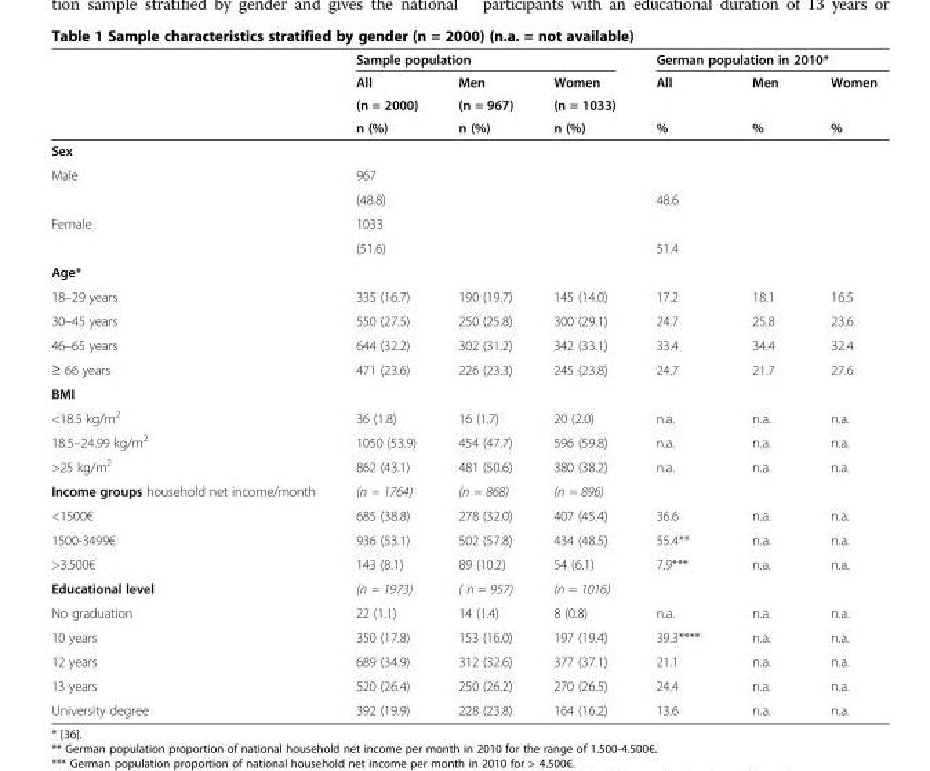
<table><thead><tr><td rowspan="4"></td><td colspan="3">Sample population</td><td colspan="3">German population in 2010*</td></tr><tr><td rowspan="3">All (n = 2000) n (%)</td><td rowspan="3">Men (n = 967) n (%)</td><td rowspan="3">Women (n = 1033) n (%)</td><td rowspan="3">All %</td><td rowspan="3">Men %</td><td rowspan="3">Women %</td></tr><tr></tr><tr></tr></thead><tbody><tr><td colspan="7">Sex</td></tr><tr><td rowspan="2">Male</td><td>967</td><td></td><td></td><td></td><td></td><td></td></tr><tr><td>(48.8)</td><td></td><td></td><td>48.6</td><td></td><td></td></tr><tr><td rowspan="2">Female</td><td>1033</td><td></td><td></td><td></td><td></td><td rowspan="2"></td></tr><tr><td>(51.6)</td><td></td><td></td><td>51.4</td><td></td></tr><tr><td colspan="7">Age*</td></tr><tr><td>18–29 years</td><td>335 (16.7)</td><td>190 (19.7)</td><td>145 (14.0)</td><td>17.2</td><td>18.1</td><td>16.5</td></tr><tr><td>30–45 years</td><td>550 (27.5)</td><td>250 (25.8)</td><td>300 (29.1)</td><td>24.7</td><td>25.8</td><td>23.6</td></tr><tr><td>46–65 years</td><td>644 (32.2)</td><td>302 (31.2)</td><td>342 (33.1)</td><td>33.4</td><td>34.4</td><td>32.4</td></tr><tr><td>≥ 66 years</td><td>471 (23.6)</td><td>226 (23.3)</td><td>245 (23.8)</td><td>24.7</td><td>21.7</td><td>27.6</td></tr><tr><td colspan="7">BMI</td></tr><tr><td>&lt;18.5 kg/m<sup>2</sup></td><td>36 (1.8)</td><td>16 (1.7)</td><td>20 (2.0)</td><td>n.a.</td><td>n.a.</td><td>n.a.</td></tr><tr><td>18.5–24.99 kg/m<sup>2</sup></td><td>1050 (53.9)</td><td>454 (47.7)</td><td>596 (59.8)</td><td>n.a.</td><td>n.a.</td><td>n.a.</td></tr><tr><td>&gt;25 kg/m<sup>2</sup></td><td>862 (43.1)</td><td>481 (50.6)</td><td>380 (38.2)</td><td>n.a.</td><td>n.a.</td><td>n.a.</td></tr><tr><td>Income groups household net income/month</td><td>(n = 1764)</td><td>(n = 868)</td><td>(n = 896)</td><td></td><td></td><td></td></tr><tr><td>&lt;1500€</td><td>685 (38.8)</td><td>278 (32.0)</td><td>407 (45.4)</td><td>36.6</td><td>n.a.</td><td>n.a.</td></tr><tr><td>1500-3499€</td><td>936 (53.1)</td><td>502 (57.8)</td><td>434 (48.5)</td><td>55.4**</td><td>n.a.</td><td>n.a.</td></tr><tr><td>&gt;3.500€</td><td>143 (8.1)</td><td>89 (10.2)</td><td>54 (6.1)</td><td>7.9***</td><td>n.a.</td><td>n.a.</td></tr><tr><td>Educational level</td><td>(n = 1973)</td><td>( n = 957)</td><td>(n = 1016)</td><td></td><td></td><td></td></tr><tr><td>No graduation</td><td>22 (1.1)</td><td>14 (1.4)</td><td>8 (0.8)</td><td>n.a.</td><td>n.a.</td><td>n.a.</td></tr><tr><td>10 years</td><td>350 (17.8)</td><td>153 (16.0)</td><td>197 (19.4)</td><td>39.3****</td><td>n.a.</td><td>n.a.</td></tr><tr><td>12 years</td><td>689 (34.9)</td><td>312 (32.6)</td><td>377 (37.1)</td><td>21.1</td><td>n.a.</td><td>n.a.</td></tr><tr><td>13 years</td><td>520 (26.4)</td><td>250 (26.2)</td><td>270 (26.5)</td><td>24.4</td><td>n.a.</td><td>n.a.</td></tr><tr><td>University degree</td><td>392 (19.9)</td><td>228 (23.8)</td><td>164 (16.2)</td><td>13.6</td><td>n.a.</td><td>n.a.</td></tr></tbody></table>